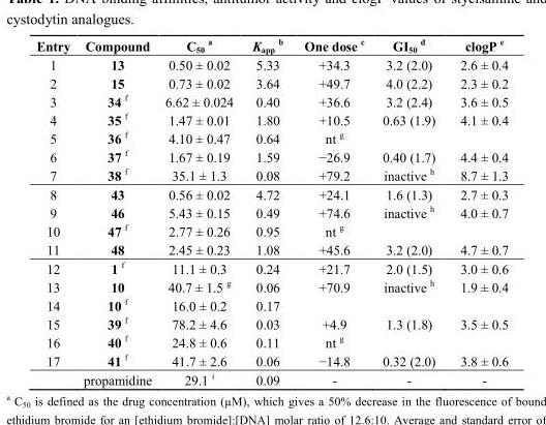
<table><thead><tr><td>Entry</td><td>Compound</td><td>C<sub>50</sub> <sup>a</sup></td><td>K<sub>app</sub> <sup>b</sup></td><td>One dose <sup>c</sup></td><td>GI<sub>50</sub> <sup>d</sup></td><td>clogP <sup>e</sup></td></tr></thead><tbody><tr><td>1</td><td>13</td><td>0.50 ± 0.02</td><td>5.33</td><td>+34.3</td><td>3.2 (2.0)</td><td>2.6 ± 0.4</td></tr><tr><td>2</td><td>15</td><td>0.73 ± 0.02</td><td>3.64</td><td>+49.7</td><td>4.0 (2.2)</td><td>2.3 ± 0.2</td></tr><tr><td>3</td><td>34 <sup>f</sup></td><td>6.62 ± 0.024</td><td>0.40</td><td>+36.6</td><td>3.2 (2.4)</td><td>3.6 ± 0.5</td></tr><tr><td>4</td><td>35 <sup>f</sup></td><td>1.47 ± 0.01</td><td>1.80</td><td>+10.5</td><td>0.63 (1.9)</td><td>4.1 ± 0.4</td></tr><tr><td>5</td><td>36 <sup>f</sup></td><td>4.10 ± 0.47</td><td>0.64</td><td>nt <sup>g</sup></td><td></td><td></td></tr><tr><td>6</td><td>37 <sup>f</sup></td><td>1.67 ± 0.19</td><td>1.59</td><td>−26.9</td><td>0.40 (1.7)</td><td>4.4 ± 0.4</td></tr><tr><td>7</td><td>38 <sup>f</sup></td><td>35.1 ± 1.3</td><td>0.08</td><td>+79.2</td><td>inactive <sup>h</sup></td><td>8.7 ± 1.3</td></tr><tr><td>8</td><td>43</td><td>0.56 ± 0.02</td><td>4.72</td><td>+24.1</td><td>1.6 (1.3)</td><td>2.7 ± 0.3</td></tr><tr><td>9</td><td>46</td><td>5.43 ± 0.15</td><td>0.49</td><td>+74.6</td><td>inactive <sup>h</sup></td><td>4.0 ± 0.7</td></tr><tr><td>10</td><td>47 <sup>f</sup></td><td>2.77 ± 0.26</td><td>0.95</td><td>nt <sup>g</sup></td><td></td><td></td></tr><tr><td>11</td><td>48</td><td>2.45 ± 0.23</td><td>1.08</td><td>+45.6</td><td>3.2 (2.0)</td><td>4.7 ± 0.7</td></tr><tr><td>12</td><td>1 <sup>f</sup></td><td>11.1 ± 0.3</td><td>0.24</td><td>+21.7</td><td>2.0 (1.5)</td><td>3.0 ± 0.6</td></tr><tr><td>13</td><td>10</td><td>40.7 ± 1.5 <sup>g</sup></td><td>0.06</td><td>+70.9</td><td>inactive <sup>h</sup></td><td>1.9 ± 0.4</td></tr><tr><td>14</td><td>10 <sup>f</sup></td><td>16.0 ± 0.2</td><td>0.17</td><td></td><td></td><td></td></tr><tr><td>15</td><td>39 <sup>f</sup></td><td>78.2 ± 4.6</td><td>0.03</td><td>+4.9</td><td>1.3 (1.8)</td><td>3.5 ± 0.5</td></tr><tr><td>16</td><td>40 <sup>f</sup></td><td>24.8 ± 0.6</td><td>0.11</td><td>nt <sup>g</sup></td><td></td><td></td></tr><tr><td rowspan="2">17</td><td>41 <sup>f</sup></td><td>41.7 ± 2.6</td><td>0.06</td><td>−14.8</td><td>0.32 (2.0)</td><td>3.8 ± 0.6</td></tr><tr><td>propamidine</td><td>29.1 <sup>i</sup></td><td>0.09</td><td>-</td><td>-</td><td>-</td></tr></tbody></table>